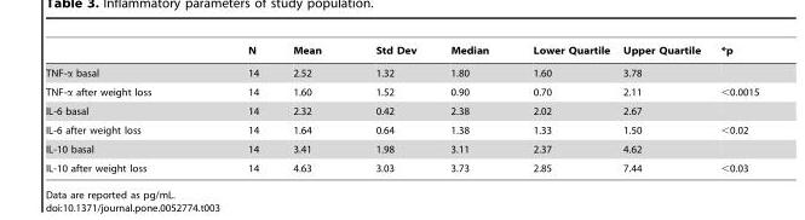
<table><thead><tr><td></td><td>N</td><td>Mean</td><td>Std Dev</td><td>Median</td><td>Lower Quartile</td><td>Upper Quartile</td><td>*p</td></tr></thead><tbody><tr><td>TNF-α basal</td><td>14</td><td>2.52</td><td>1.32</td><td>1.80</td><td>1.60</td><td>3.78</td><td></td></tr><tr><td>TNF-α after weight loss</td><td>14</td><td>1.60</td><td>1.52</td><td>0.90</td><td>0.70</td><td>2.11</td><td>&lt;0.0015</td></tr><tr><td>IL-6 basal</td><td>14</td><td>2.32</td><td>0.42</td><td>2.38</td><td>2.02</td><td>2.67</td><td></td></tr><tr><td>IL-6 after weight loss</td><td>14</td><td>1.64</td><td>0.64</td><td>1.38</td><td>1.33</td><td>1.50</td><td>&lt;0.02</td></tr><tr><td>IL-10 basal</td><td>14</td><td>3.41</td><td>1.98</td><td>3.11</td><td>2.37</td><td>4.62</td><td></td></tr><tr><td>IL-10 after weight loss</td><td>14</td><td>4.63</td><td>3.03</td><td>3.73</td><td>2.85</td><td>7.44</td><td>&lt;0.03</td></tr></tbody></table>